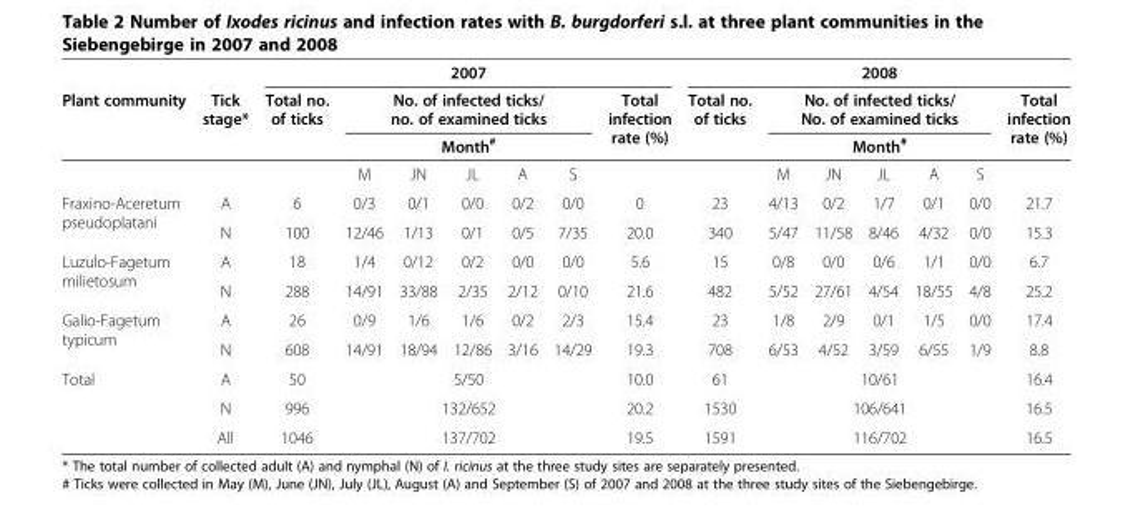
<table><thead><tr><td rowspan="4">Plant community</td><td rowspan="4">Tick stage*</td><td colspan="7">2007</td><td colspan="7">2008</td></tr><tr><td rowspan="3">Total no. of ticks</td><td rowspan="2" colspan="5">No. of infected ticks/ no. of examined ticks Month#</td><td rowspan="3">Total infection rate (%)</td><td rowspan="3">Total no. of ticks</td><td rowspan="2" colspan="5">No. of infected ticks/ No. of examined ticks Month#</td><td rowspan="3">Total infection rate (%)</td></tr><tr></tr><tr><td>M</td><td>JN</td><td>JL</td><td>A</td><td>S</td><td>M</td><td>JN</td><td>JL</td><td>A</td><td>S</td></tr></thead><tbody><tr><td rowspan="2">Fraxino-Aceretum pseudoplatani</td><td>A</td><td>6</td><td>0/3</td><td>0/1</td><td>0/0</td><td>0/2</td><td>0/0</td><td>0</td><td>23</td><td>4/13</td><td>0/2</td><td>1/7</td><td>0/1</td><td>0/0</td><td>21.7</td></tr><tr><td>N</td><td>100</td><td>12/46</td><td>1/13</td><td>0/1</td><td>0/5</td><td>7/35</td><td>20.0</td><td>340</td><td>5/47</td><td>11/58</td><td>8/46</td><td>4/32</td><td>0/0</td><td>15.3</td></tr><tr><td rowspan="2">Luzulo-Fagetum milietosum</td><td>A</td><td>18</td><td>1/4</td><td>0/12</td><td>0/2</td><td>0/0</td><td>0/0</td><td>5.6</td><td>15</td><td>0/8</td><td>0/0</td><td>0/6</td><td>1/1</td><td>0/0</td><td>6.7</td></tr><tr><td>N</td><td>288</td><td>14/91</td><td>33/88</td><td>2/35</td><td>2/12</td><td>0/10</td><td>21.6</td><td>482</td><td>5/52</td><td>27/61</td><td>4/54</td><td>18/55</td><td>4/8</td><td>25.2</td></tr><tr><td rowspan="2">Galio-Fagetum typicum</td><td>A</td><td>26</td><td>0/9</td><td>1/6</td><td>1/6</td><td>0/2</td><td>2/3</td><td>15.4</td><td>23</td><td>1/8</td><td>2/9</td><td>0/1</td><td>1/5</td><td>0/0</td><td>17.4</td></tr><tr><td>N</td><td>608</td><td>14/91</td><td>18/94</td><td>12/86</td><td>3/16</td><td>14/29</td><td>19.3</td><td>708</td><td>6/53</td><td>4/52</td><td>3/59</td><td>6/55</td><td>1/9</td><td>8.8</td></tr><tr><td rowspan="3">Total</td><td>A</td><td>50</td><td colspan="5">5/50</td><td>10.0</td><td>61</td><td colspan="5">10/61</td><td>16.4</td></tr><tr><td>N</td><td>996</td><td colspan="5">132/652</td><td>20.2</td><td>1530</td><td colspan="5">106/641</td><td>16.5</td></tr><tr><td>All</td><td>1046</td><td colspan="5">137/702</td><td>19.5</td><td>1591</td><td colspan="5">116/702</td><td>16.5</td></tr></tbody></table>